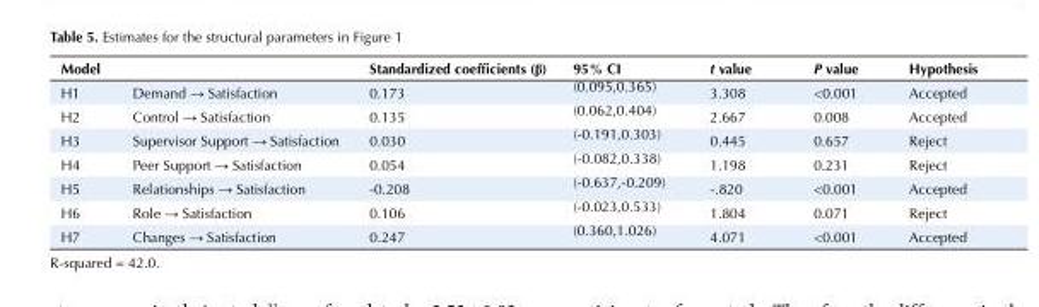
<table><tbody><tr><td>Model</td><td></td><td>Standardized coefficients (β)</td><td>95% CI</td><td>t value</td><td>P value</td><td>Hypothesis</td></tr><tr><td>H1</td><td>Demand → Satisfaction</td><td>0.173</td><td>(0.095,0.365)</td><td>3.308</td><td>&lt;0.001</td><td>Accepted</td></tr><tr><td>H2</td><td>Control → Satisfaction</td><td>0.135</td><td>(0.062,0.404)</td><td>2.667</td><td>0.008</td><td>Accepted</td></tr><tr><td>H3</td><td>Supervisor Support → Satisfaction</td><td>0.030</td><td>(-0.191,0.303)</td><td>0.445</td><td>0.657</td><td>Reject</td></tr><tr><td>H4</td><td>Peer Support → Satisfaction</td><td>0.054</td><td>(-0.082,0.338)</td><td>1.198</td><td>0.231</td><td>Reject</td></tr><tr><td>H5</td><td>Relationships → Satisfaction</td><td>-0.208</td><td>(-0.637,-0.209)</td><td>-.820</td><td>&lt;0.001</td><td>Accepted</td></tr><tr><td>H6</td><td>Role → Satisfaction</td><td>0.106</td><td>(-0.023,0.533)</td><td>1.804</td><td>0.071</td><td>Reject</td></tr><tr><td>H7</td><td>Changes → Satisfaction</td><td>0.247</td><td>(0.360,1.026)</td><td>4.071</td><td>&lt;0.001</td><td>Accepted</td></tr></tbody></table>